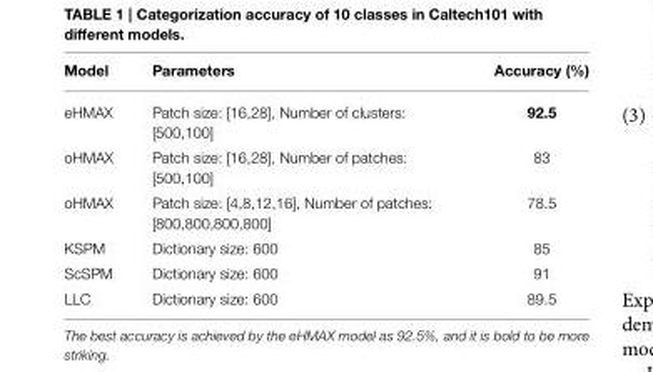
<table><thead><tr><td>Model</td><td>Parameters</td><td>Accuracy (%)</td></tr></thead><tbody><tr><td>eHMAX</td><td>Patch size: [16,28], Number of clusters: [500,100]</td><td>92.5</td></tr><tr><td>oHMAX</td><td>Patch size: [16,28], Number of patches: [500,100]</td><td>83</td></tr><tr><td>oHMAX</td><td>Patch size: [4,8,12,16], Number of patches: [800,800,800,800]</td><td>78.5</td></tr><tr><td>KSPM</td><td>Dictionary size: 600</td><td>85</td></tr><tr><td>ScSPM</td><td>Dictionary size: 600</td><td>91</td></tr><tr><td>LLC</td><td>Dictionary size: 600</td><td>89.5</td></tr></tbody></table>